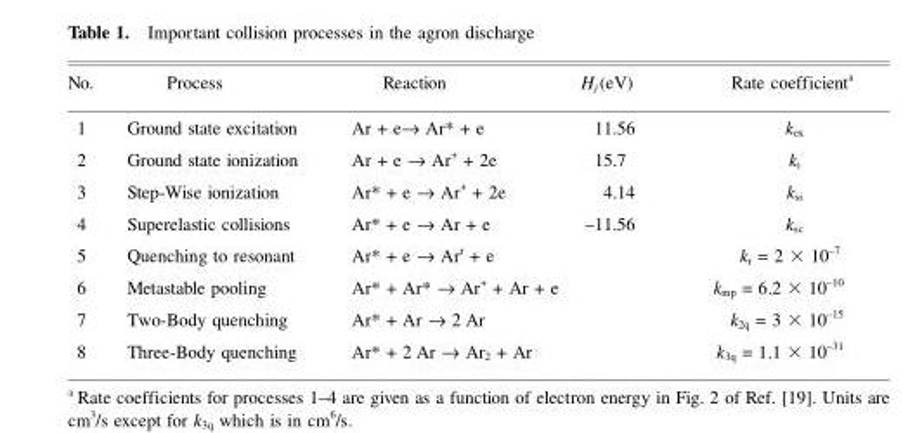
<table><thead><tr><td>No.</td><td>Process</td><td>Reaction</td><td>H<sub>j</sub>(eV)</td><td>Rate coefficient<sup>a</sup></td></tr></thead><tbody><tr><td>1</td><td>Ground state excitation</td><td>Ar + e→ Ar* + e</td><td>11.56</td><td>k<sub>ex</sub></td></tr><tr><td>2</td><td>Ground state ionization</td><td>Ar + e → Ar<sup>+</sup> + 2e</td><td>15.7</td><td>k<sub>i</sub></td></tr><tr><td>3</td><td>Step-Wise ionization</td><td>Ar* + e → Ar<sup>+</sup> + 2e</td><td>4.14</td><td>k<sub>si</sub></td></tr><tr><td>4</td><td>Superelastic collisions</td><td>Ar* + e → Ar + e</td><td>–11.56</td><td>k<sub>sc</sub></td></tr><tr><td>5</td><td>Quenching to resonant</td><td>Ar* + e → Ar<sup>r</sup> + e</td><td></td><td>k<sub>r</sub> = 2 × 10<sup>–7</sup></td></tr><tr><td>6</td><td>Metastable pooling</td><td>Ar* + Ar* → Ar<sup>+</sup> + Ar + e</td><td></td><td>k<sub>mp</sub> = 6.2 × 10<sup>–10</sup></td></tr><tr><td>7</td><td>Two-Body quenching</td><td>Ar* + Ar → 2 Ar</td><td></td><td>k<sub>2q</sub> = 3 × 10<sup>–15</sup></td></tr><tr><td>8</td><td>Three-Body quenching</td><td>Ar* + 2 Ar → Ar<sub>2</sub> + Ar</td><td></td><td>k<sub>3q</sub> = 1.1 × 10<sup>–31</sup></td></tr></tbody></table>